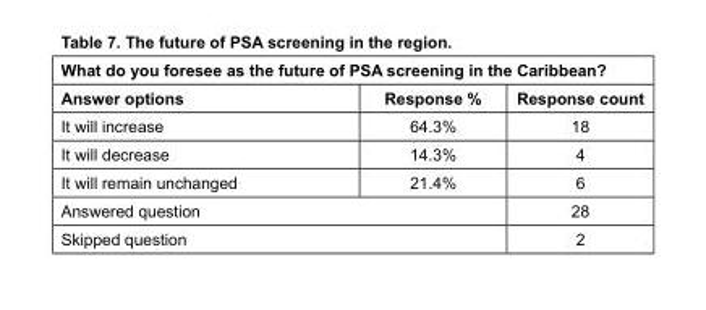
<table><thead><tr><td colspan="3">What do you foresee as the future of PSA screening in the Caribbean?</td></tr><tr><td>Answer options</td><td>Response %</td><td>Response count</td></tr></thead><tbody><tr><td>It will increase</td><td>64.3%</td><td>18</td></tr><tr><td>It will decrease</td><td>14.3%</td><td>4</td></tr><tr><td>It will remain unchanged</td><td>21.4%</td><td>6</td></tr><tr><td colspan="2">Answered question</td><td>28</td></tr><tr><td colspan="2">Skipped question</td><td>2</td></tr></tbody></table>